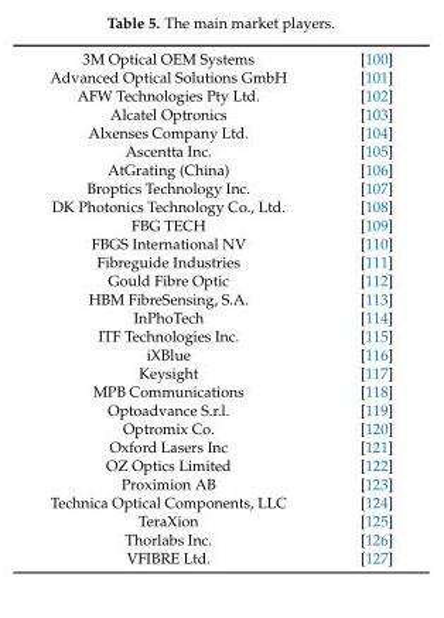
<table><tbody><tr><td>3M Optical OEM Systems</td><td>[100]</td></tr><tr><td>Advanced Optical Solutions GmbH</td><td>[101]</td></tr><tr><td>AFW Technologies Pty Ltd.</td><td>[102]</td></tr><tr><td>Alcatel Optronics</td><td>[103]</td></tr><tr><td>Alxenses Company Ltd.</td><td>[104]</td></tr><tr><td>Ascentta Inc.</td><td>[105]</td></tr><tr><td>AtGrating (China)</td><td>[106]</td></tr><tr><td>Broptics Technology Inc.</td><td>[107]</td></tr><tr><td>DK Photonics Technology Co., Ltd.</td><td>[108]</td></tr><tr><td>FBG TECH</td><td>[109]</td></tr><tr><td>FBGS International NV</td><td>[110]</td></tr><tr><td>Fibreguide Industries</td><td>[111]</td></tr><tr><td>Gould Fibre Optic</td><td>[112]</td></tr><tr><td>HBM FibreSensing, S.A.</td><td>[113]</td></tr><tr><td>InPhoTech</td><td>[114]</td></tr><tr><td>ITF Technologies Inc.</td><td>[115]</td></tr><tr><td>iXBlue</td><td>[116]</td></tr><tr><td>Keysight</td><td>[117]</td></tr><tr><td>MPB Communications</td><td>[118]</td></tr><tr><td>Optoadvance S.r.l.</td><td>[119]</td></tr><tr><td>Optromix Co.</td><td>[120]</td></tr><tr><td>Oxford Lasers Inc</td><td>[121]</td></tr><tr><td>OZ Optics Limited</td><td>[122]</td></tr><tr><td>Proximion AB</td><td>[123]</td></tr><tr><td>Technica Optical Components, LLC</td><td>[124]</td></tr><tr><td>TeraXion</td><td>[125]</td></tr><tr><td>Thorlabs Inc.</td><td>[126]</td></tr><tr><td>VFIBRE Ltd.</td><td>[127]</td></tr></tbody></table>